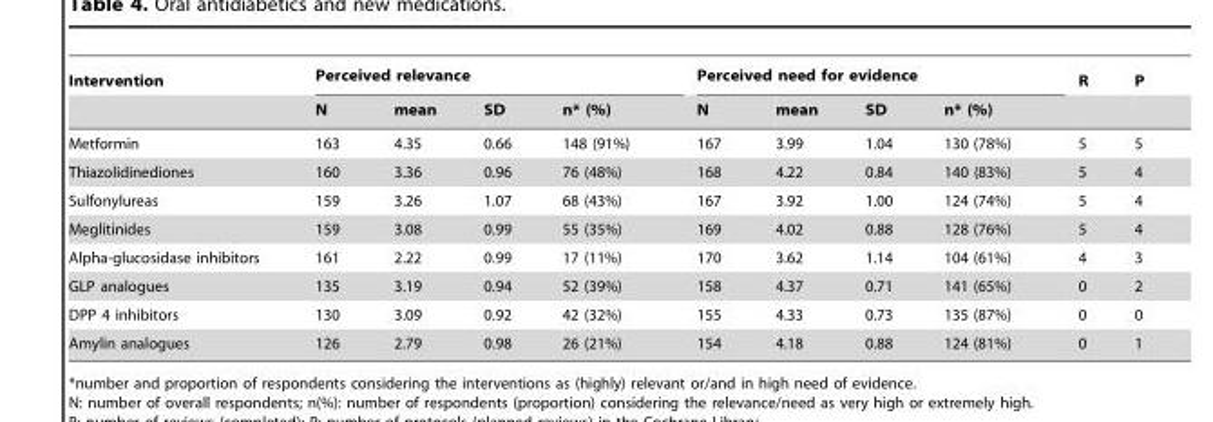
<table><thead><tr><td rowspan="2">Intervention</td><td colspan="4">Perceived relevance</td><td colspan="4">Perceived need for evidence</td><td rowspan="2">R</td><td rowspan="2">P</td></tr><tr><td>N</td><td>mean</td><td>SD</td><td>n* (%)</td><td>N</td><td>mean</td><td>SD</td><td>n* (%)</td></tr></thead><tbody><tr><td>Metformin</td><td>163</td><td>4.35</td><td>0.66</td><td>148 (91%)</td><td>167</td><td>3.99</td><td>1.04</td><td>130 (78%)</td><td>5</td><td>5</td></tr><tr><td>Thiazolidinediones</td><td>160</td><td>3.36</td><td>0.96</td><td>76 (48%)</td><td>168</td><td>4.22</td><td>0.84</td><td>140 (83%)</td><td>5</td><td>4</td></tr><tr><td>Sulfonylureas</td><td>159</td><td>3.26</td><td>1.07</td><td>68 (43%)</td><td>167</td><td>3.92</td><td>1.00</td><td>124 (74%)</td><td>5</td><td>4</td></tr><tr><td>Meglitinides</td><td>159</td><td>3.08</td><td>0.99</td><td>55 (35%)</td><td>169</td><td>4.02</td><td>0.88</td><td>128 (76%)</td><td>5</td><td>4</td></tr><tr><td>Alpha-glucosidase inhibitors</td><td>161</td><td>2.22</td><td>0.99</td><td>17 (11%)</td><td>170</td><td>3.62</td><td>1.14</td><td>104 (61%)</td><td>4</td><td>3</td></tr><tr><td>GLP analogues</td><td>135</td><td>3.19</td><td>0.94</td><td>52 (39%)</td><td>158</td><td>4.37</td><td>0.71</td><td>141 (65%)</td><td>0</td><td>2</td></tr><tr><td>DPP 4 inhibitors</td><td>130</td><td>3.09</td><td>0.92</td><td>42 (32%)</td><td>155</td><td>4.33</td><td>0.73</td><td>135 (87%)</td><td>0</td><td>0</td></tr><tr><td>Amylin analogues</td><td>126</td><td>2.79</td><td>0.98</td><td>26 (21%)</td><td>154</td><td>4.18</td><td>0.88</td><td>124 (81%)</td><td>0</td><td>1</td></tr></tbody></table>